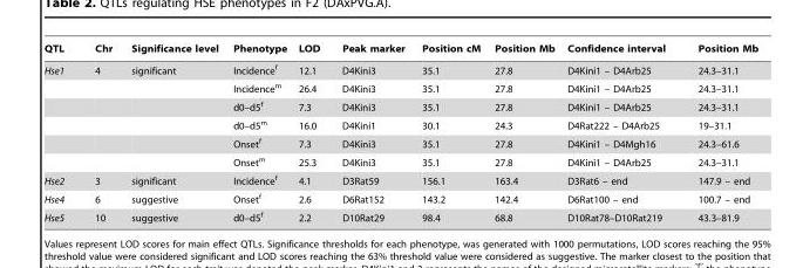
<table><thead><tr><td>QTL</td><td>Chr</td><td>Significance level</td><td>Phenotype</td><td>LOD</td><td>Peak marker</td><td>Position cM</td><td>Position Mb</td><td>Confidence interval</td><td>Position Mb</td></tr></thead><tbody><tr><td rowspan="6">Hse1</td><td>4</td><td>significant</td><td>Incidence<sup>f</sup></td><td>12.1</td><td>D4Kini3</td><td>35.1</td><td>27.8</td><td>D4Kini1 – D4Arb25</td><td>24.3–31.1</td></tr><tr><td></td><td></td><td>Incidence<sup>m</sup></td><td>26.4</td><td>D4Kini3</td><td>35.1</td><td>27.8</td><td>D4Kini1 – D4Arb25</td><td>24.3–31.1</td></tr><tr><td></td><td></td><td>d0–d5<sup>f</sup></td><td>7.3</td><td>D4Kini3</td><td>35.1</td><td>27.8</td><td>D4Kini1 – D4Arb25</td><td>24.3–31.1</td></tr><tr><td></td><td></td><td>d0–d5<sup>m</sup></td><td>16.0</td><td>D4Kini1</td><td>30.1</td><td>24.3</td><td>D4Rat222 – D4Arb25</td><td>19–31.1</td></tr><tr><td></td><td></td><td>Onset<sup>f</sup></td><td>7.3</td><td>D4Kini3</td><td>35.1</td><td>27.8</td><td>D4Kini1 – D4Mgh16</td><td>24.3–61.6</td></tr><tr><td></td><td></td><td>Onset<sup>m</sup></td><td>25.3</td><td>D4Kini3</td><td>35.1</td><td>27.8</td><td>D4Kini1 – D4Arb25</td><td>24.3–31.1</td></tr><tr><td>Hse2</td><td>3</td><td>significant</td><td>Incidence<sup>f</sup></td><td>4.1</td><td>D3Rat59</td><td>156.1</td><td>163.4</td><td>D3Rat6 – end</td><td>147.9 – end</td></tr><tr><td>Hse4</td><td>6</td><td>suggestive</td><td>Onset<sup>f</sup></td><td>2.6</td><td>D6Rat152</td><td>143.2</td><td>142.4</td><td>D6Rat100 – end</td><td>100.7 – end</td></tr><tr><td>Hse5</td><td>10</td><td>suggestive</td><td>d0–d5<sup>f</sup></td><td>2.2</td><td>D10Rat29</td><td>98.4</td><td>68.8</td><td>D10Rat78–D10Rat219</td><td>43.3–81.9</td></tr></tbody></table>